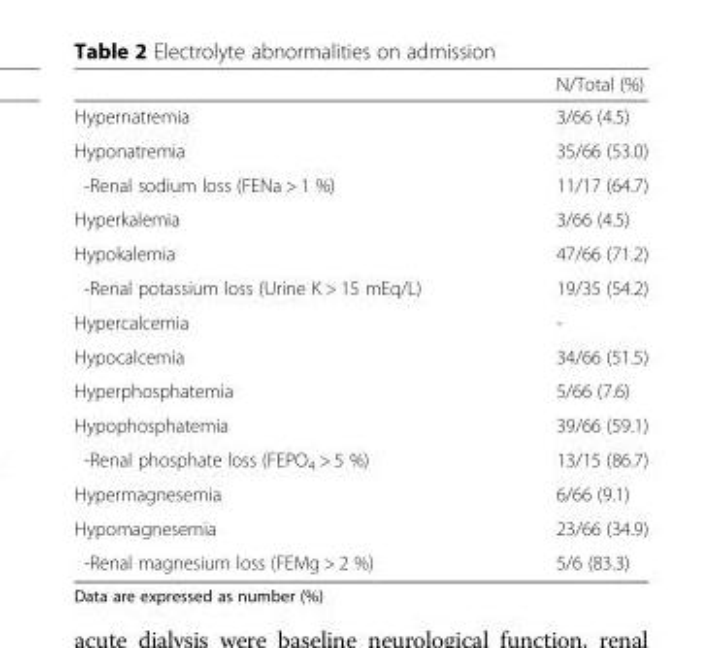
<table><thead><tr><td></td><td>N/Total (%)</td></tr></thead><tbody><tr><td>Hypernatremia</td><td>3/66 (4.5)</td></tr><tr><td>Hyponatremia</td><td>35/66 (53.0)</td></tr><tr><td>-Renal sodium loss (FENa &gt; 1 %)</td><td>11/17 (64.7)</td></tr><tr><td>Hyperkalemia</td><td>3/66 (4.5)</td></tr><tr><td>Hypokalemia</td><td>47/66 (71.2)</td></tr><tr><td>-Renal potassium loss (Urine K &gt; 15 mEq/L)</td><td>19/35 (54.2)</td></tr><tr><td>Hypercalcemia</td><td>-</td></tr><tr><td>Hypocalcemia</td><td>34/66 (51.5)</td></tr><tr><td>Hyperphosphatemia</td><td>5/66 (7.6)</td></tr><tr><td>Hypophosphatemia</td><td>39/66 (59.1)</td></tr><tr><td>-Renal phosphate loss (FEPO<sub>4</sub> &gt; 5 %)</td><td>13/15 (86.7)</td></tr><tr><td>Hypermagnesemia</td><td>6/66 (9.1)</td></tr><tr><td>Hypomagnesemia</td><td>23/66 (34.9)</td></tr><tr><td>-Renal magnesium loss (FEMg &gt; 2 %)</td><td>5/6 (83.3)</td></tr></tbody></table>